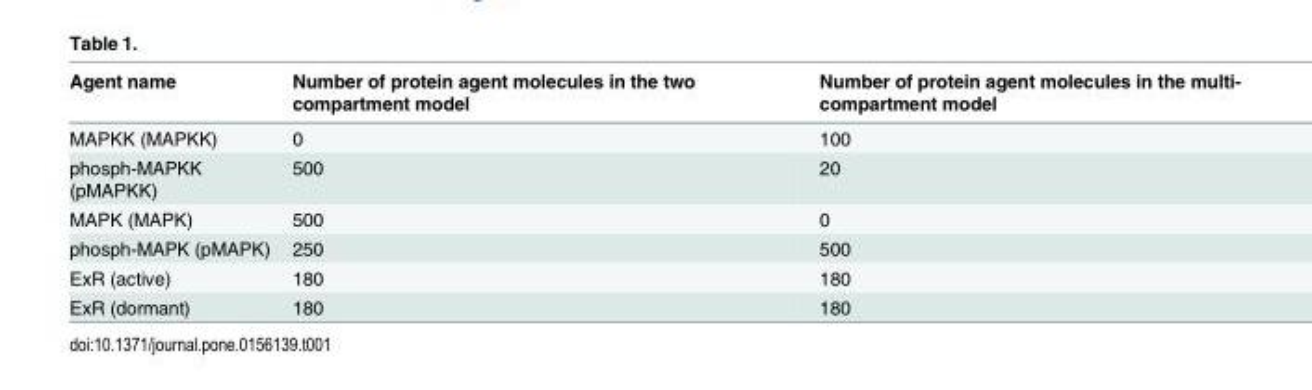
<table><thead><tr><td>Agent name</td><td>Number of protein agent molecules in the two compartment model</td><td>Number of protein agent molecules in the multi- compartment model</td></tr></thead><tbody><tr><td>MAPKK (MAPKK)</td><td>0</td><td>100</td></tr><tr><td>phosph-MAPKK (pMAPKK)</td><td>500</td><td>20</td></tr><tr><td>MAPK (MAPK)</td><td>500</td><td>0</td></tr><tr><td>phosph-MAPK (pMAPK)</td><td>250</td><td>500</td></tr><tr><td>ExR (active)</td><td>180</td><td>180</td></tr><tr><td>ExR (dormant)</td><td>180</td><td>180</td></tr></tbody></table>